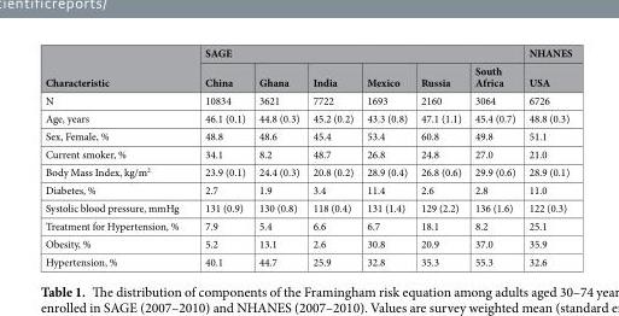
<table><thead><tr><td rowspan="2">Characteristic</td><td colspan="6">SAGE</td><td rowspan="2">NHANES USA</td></tr><tr><td>China</td><td>Ghana</td><td>India</td><td>Mexico</td><td>Russia</td><td>South Africa</td></tr></thead><tbody><tr><td>N</td><td>10834</td><td>3621</td><td>7722</td><td>1693</td><td>2160</td><td>3064</td><td>6726</td></tr><tr><td>Age, years</td><td>46.1 (0.1)</td><td>44.8 (0.3)</td><td>45.2 (0.2)</td><td>43.3 (0.8)</td><td>47.1 (1.1)</td><td>45.4 (0.7)</td><td>48.8 (0.3)</td></tr><tr><td>Sex, Female, %</td><td>48.8</td><td>48.6</td><td>45.4</td><td>53.4</td><td>60.8</td><td>49.8</td><td>51.1</td></tr><tr><td>Current smoker, %</td><td>34.1</td><td>8.2</td><td>48.7</td><td>26.8</td><td>24.8</td><td>27.0</td><td>21.0</td></tr><tr><td>Body Mass Index, kg/m<sup>2</sup></td><td>23.9 (0.1)</td><td>24.4 (0.3)</td><td>20.8 (0.2)</td><td>28.9 (0.4)</td><td>26.8 (0.6)</td><td>29.9 (0.6)</td><td>28.9 (0.1)</td></tr><tr><td>Diabetes, %</td><td>2.7</td><td>1.9</td><td>3.4</td><td>11.4</td><td>2.6</td><td>2.8</td><td>11.0</td></tr><tr><td>Systolic blood pressure, mmHg</td><td>131 (0.9)</td><td>130 (0.8)</td><td>118 (0.4)</td><td>131 (1.4)</td><td>129 (2.2)</td><td>136 (1.6)</td><td>122 (0.3)</td></tr><tr><td>Treatment for Hypertension, %</td><td>7.9</td><td>5.4</td><td>6.6</td><td>6.7</td><td>18.1</td><td>8.2</td><td>25.1</td></tr><tr><td>Obesity, %</td><td>5.2</td><td>13.1</td><td>2.6</td><td>30.8</td><td>20.9</td><td>37.0</td><td>35.9</td></tr><tr><td>Hypertension, %</td><td>40.1</td><td>44.7</td><td>25.9</td><td>32.8</td><td>35.3</td><td>55.3</td><td>32.6</td></tr></tbody></table>